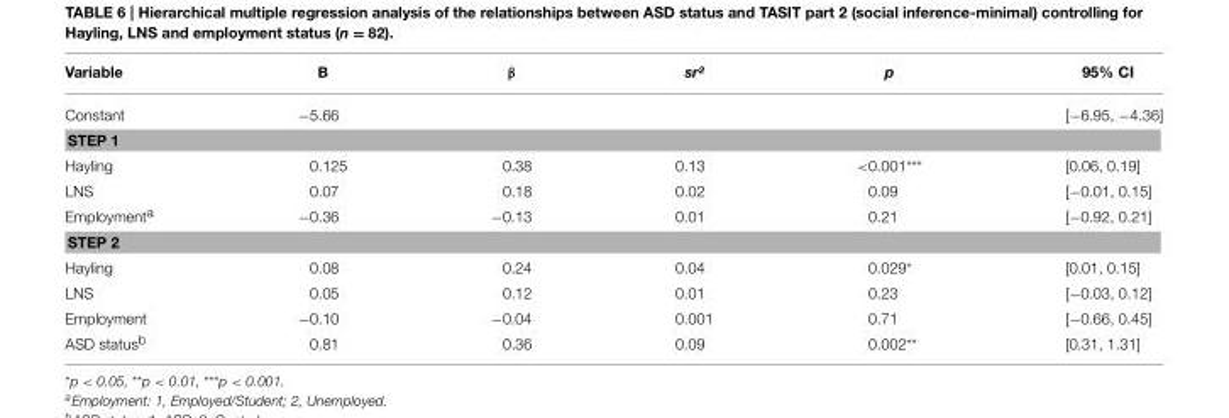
<table><thead><tr><td>Variable</td><td>B</td><td>β</td><td>sr²</td><td>p</td><td>95% CI</td></tr></thead><tbody><tr><td>Constant</td><td>−5.66</td><td></td><td></td><td></td><td>[−6.95, −4.36]</td></tr><tr><td colspan="6">STEP 1</td></tr><tr><td>Hayling</td><td>0.125</td><td>0.38</td><td>0.13</td><td>&lt;0.001***</td><td>[0.06, 0.19]</td></tr><tr><td>LNS</td><td>0.07</td><td>0.18</td><td>0.02</td><td>0.09</td><td>[−0.01, 0.15]</td></tr><tr><td>Employment<sup>a</sup></td><td>−0.36</td><td>−0.13</td><td>0.01</td><td>0.21</td><td>[−0.92, 0.21]</td></tr><tr><td colspan="6">STEP 2</td></tr><tr><td>Hayling</td><td>0.08</td><td>0.24</td><td>0.04</td><td>0.029*</td><td>[0.01, 0.15]</td></tr><tr><td>LNS</td><td>0.05</td><td>0.12</td><td>0.01</td><td>0.23</td><td>[−0.03, 0.12]</td></tr><tr><td>Employment</td><td>−0.10</td><td>−0.04</td><td>0.001</td><td>0.71</td><td>[−0.66, 0.45]</td></tr><tr><td>ASD status<sup>b</sup></td><td>0.81</td><td>0.36</td><td>0.09</td><td>0.002**</td><td>[0.31, 1.31]</td></tr></tbody></table>